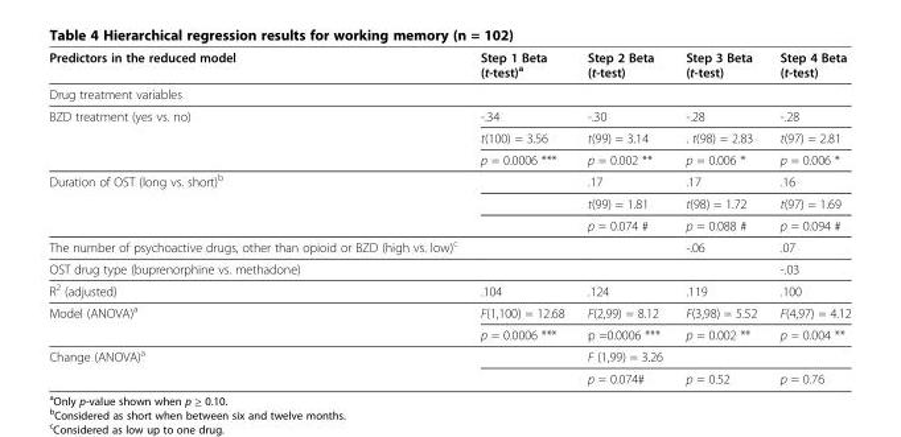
<table><thead><tr><td>Predictors in the reduced model</td><td>Step 1 Beta (t-test)<sup>a</sup></td><td>Step 2 Beta (t-test)</td><td>Step 3 Beta (t-test)</td><td>Step 4 Beta (t-test)</td></tr></thead><tbody><tr><td colspan="5">Drug treatment variables</td></tr><tr><td rowspan="3">BZD treatment (yes vs. no)</td><td>-.34</td><td>-.30</td><td>-.28</td><td>-.28</td></tr><tr><td>t(100) = 3.56</td><td>t(99) = 3.14</td><td>. t(98) = 2.83</td><td>t(97) = 2.81</td></tr><tr><td>p = 0.0006 ***</td><td>p = 0.002 **</td><td>p = 0.006 *</td><td>p = 0.006 *</td></tr><tr><td rowspan="3">Duration of OST (long vs. short)<sup>b</sup></td><td></td><td>.17</td><td>.17</td><td>.16</td></tr><tr><td></td><td>t(99) = 1.81</td><td>t(98) = 1.72</td><td>t(97) = 1.69</td></tr><tr><td></td><td>p = 0.074 #</td><td>p = 0.088 #</td><td>p = 0.094 #</td></tr><tr><td>The number of psychoactive drugs, other than opioid or BZD (high vs. low)<sup>c</sup></td><td></td><td></td><td>-.06</td><td>.07</td></tr><tr><td>OST drug type (buprenorphine vs. methadone)</td><td></td><td></td><td></td><td>-.03</td></tr><tr><td>R<sup>2</sup> (adjusted)</td><td>.104</td><td>.124</td><td>.119</td><td>.100</td></tr><tr><td rowspan="2">Model (ANOVA)<sup>a</sup></td><td>F(1,100) = 12.68</td><td>F(2,99) = 8.12</td><td>F(3,98) = 5.52</td><td>F(4,97) = 4.12</td></tr><tr><td>p = 0.0006 ***</td><td>p =0.0006 ***</td><td>p = 0.002 **</td><td>p = 0.004 **</td></tr><tr><td rowspan="2">Change (ANOVA)<sup>a</sup></td><td></td><td>F (1,99) = 3.26</td><td></td><td></td></tr><tr><td></td><td>p = 0.074#</td><td>p = 0.52</td><td>p = 0.76</td></tr></tbody></table>